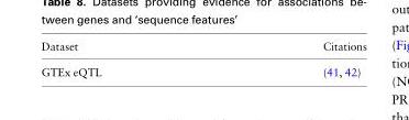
<table><thead><tr><td>Dataset</td><td>Citations</td></tr></thead><tbody><tr><td>GTEx eQTL</td><td>(41, 42)</td></tr></tbody></table>